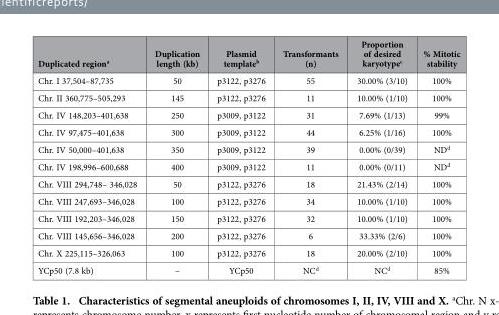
<table><thead><tr><td>Duplicated region<sup>a</sup></td><td>Duplication length (kb)</td><td>Plasmid template<sup>b</sup></td><td>Transformants (n)</td><td>Proportion of desired karyotype<sup>c</sup></td><td>% Mitotic stability</td></tr></thead><tbody><tr><td>Chr. I 37,504–87,735</td><td>50</td><td>p3122, p3276</td><td>55</td><td>30.00% (3/10)</td><td>100%</td></tr><tr><td>Chr. II 360,775–505,293</td><td>145</td><td>p3122, p3276</td><td>11</td><td>10.00% (1/10)</td><td>100%</td></tr><tr><td>Chr. IV 148,203–401,638</td><td>250</td><td>p3009, p3122</td><td>31</td><td>7.69% (1/13)</td><td>99%</td></tr><tr><td>Chr. IV 97,475–401,638</td><td>300</td><td>p3009, p3122</td><td>44</td><td>6.25% (1/16)</td><td>100%</td></tr><tr><td>Chr. IV 50,000–401,638</td><td>350</td><td>p3009, p3122</td><td>39</td><td>0.00% (0/39)</td><td>ND<sup>d</sup></td></tr><tr><td>Chr. IV 198,996–600,688</td><td>400</td><td>p3009, p3122</td><td>11</td><td>0.00% (0/11)</td><td>ND<sup>d</sup></td></tr><tr><td>Chr. VIII 294,748– 346,028</td><td>50</td><td>p3122, p3276</td><td>18</td><td>21.43% (2/14)</td><td>100%</td></tr><tr><td>Chr. VIII 247,693–346,028</td><td>100</td><td>p3122, p3276</td><td>34</td><td>10.00% (1/10)</td><td>100%</td></tr><tr><td>Chr. VIII 192,203–346,028</td><td>150</td><td>p3122, p3276</td><td>32</td><td>10.00% (1/10)</td><td>100%</td></tr><tr><td>Chr. VIII 145,656–346,028</td><td>200</td><td>p3122, p3276</td><td>6</td><td>33.33% (2/6)</td><td>100%</td></tr><tr><td>Chr. X 225,115–326,063</td><td>100</td><td>p3122, p3276</td><td>18</td><td>20.00% (2/10)</td><td>100%</td></tr><tr><td>YCp50 (7.8 kb)</td><td>–</td><td>YCp50</td><td>NC<sup>d</sup></td><td>NC<sup>d</sup></td><td>85%</td></tr></tbody></table>